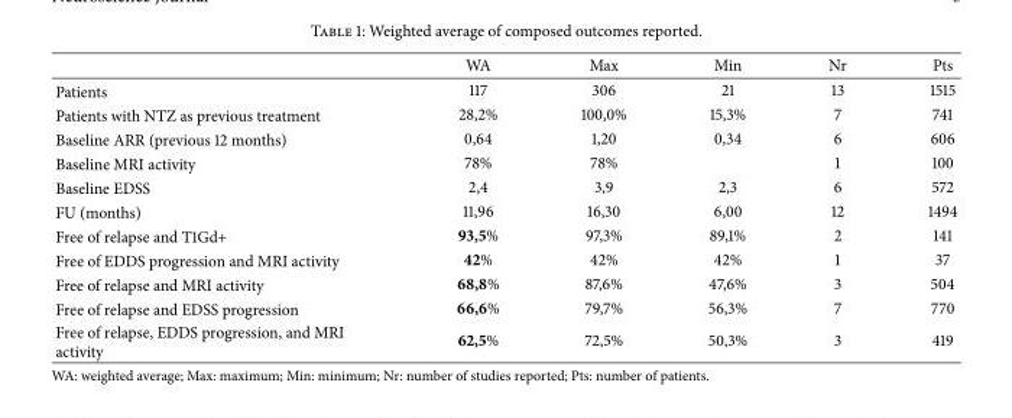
<table><thead><tr><td></td><td>WA</td><td>Max</td><td>Min</td><td>Nr</td><td>Pts</td></tr></thead><tbody><tr><td>Patients</td><td>117</td><td>306</td><td>21</td><td>13</td><td>1515</td></tr><tr><td>Patients with NTZ as previous treatment</td><td>28,2%</td><td>100,0%</td><td>15,3%</td><td>7</td><td>741</td></tr><tr><td>Baseline ARR (previous 12 months)</td><td>0,64</td><td>1,20</td><td>0,34</td><td>6</td><td>606</td></tr><tr><td>Baseline MRI activity</td><td>78%</td><td>78%</td><td></td><td>1</td><td>100</td></tr><tr><td>Baseline EDSS</td><td>2,4</td><td>3,9</td><td>2,3</td><td>6</td><td>572</td></tr><tr><td>FU (months)</td><td>11,96</td><td>16,30</td><td>6,00</td><td>12</td><td>1494</td></tr><tr><td>Free of relapse and T1Gd+</td><td>93,5%</td><td>97,3%</td><td>89,1%</td><td>2</td><td>141</td></tr><tr><td>Free of EDDS progression and MRI activity</td><td>42%</td><td>42%</td><td>42%</td><td>1</td><td>37</td></tr><tr><td>Free of relapse and MRI activity</td><td>68,8%</td><td>87,6%</td><td>47,6%</td><td>3</td><td>504</td></tr><tr><td>Free of relapse and EDSS progression</td><td>66,6%</td><td>79,7%</td><td>56,3%</td><td>7</td><td>770</td></tr><tr><td>Free of relapse, EDDS progression, and MRI activity</td><td>62,5%</td><td>72,5%</td><td>50,3%</td><td>3</td><td>419</td></tr></tbody></table>